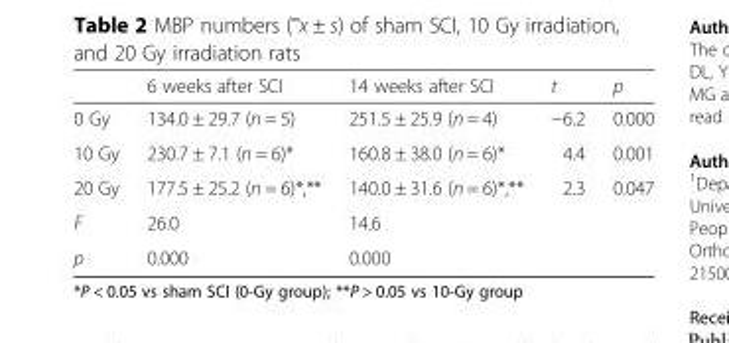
<table><thead><tr><td></td><td>6 weeks after SCI</td><td>14 weeks after SCI</td><td>t</td><td>p</td></tr></thead><tbody><tr><td>0 Gy</td><td>134.0 ± 29.7 (n = 5)</td><td>251.5 ± 25.9 (n = 4)</td><td>−6.2</td><td>0.000</td></tr><tr><td>10 Gy</td><td>230.7 ± 7.1 (n = 6)*</td><td>160.8 ± 38.0 (n = 6)*</td><td>4.4</td><td>0.001</td></tr><tr><td>20 Gy</td><td>177.5 ± 25.2 (n = 6)*,**</td><td>140.0 ± 31.6 (n = 6)*,**</td><td>2.3</td><td>0.047</td></tr><tr><td>F</td><td>26.0</td><td>14.6</td><td></td><td></td></tr><tr><td>p</td><td>0.000</td><td>0.000</td><td></td><td></td></tr></tbody></table>